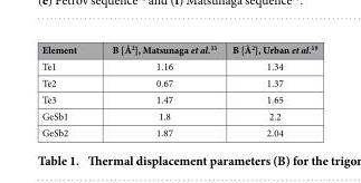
<table><thead><tr><td>Element</td><td>B [Å<sup>2</sup>], Matsunaga et al.<sup>33</sup></td><td>B [Å<sup>2</sup>], Urban et al.<sup>19</sup></td></tr></thead><tbody><tr><td>Te1</td><td>1.16</td><td>1.34</td></tr><tr><td>Te2</td><td>0.67</td><td>1.37</td></tr><tr><td>Te3</td><td>1.47</td><td>1.65</td></tr><tr><td>GeSb1</td><td>1.8</td><td>2.2</td></tr><tr><td>GeSb2</td><td>1.87</td><td>2.04</td></tr></tbody></table>